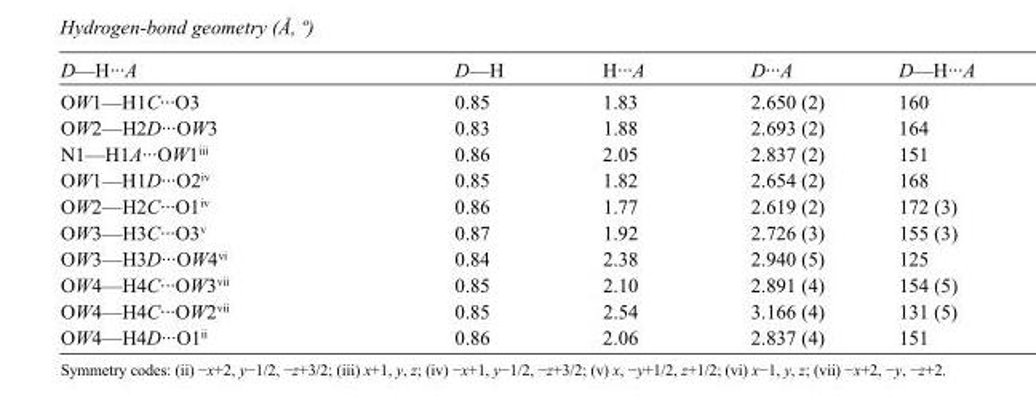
<table><tbody><tr><td>D—H···A</td><td>D—H</td><td>H···A</td><td>D···A</td><td>D—H···A</td></tr><tr><td>OW1—H1C···O3</td><td>0.85</td><td>1.83</td><td>2.650 (2)</td><td>160</td></tr><tr><td>OW2—H2D···OW3</td><td>0.83</td><td>1.88</td><td>2.693 (2)</td><td>164</td></tr><tr><td>N1—H1A···OW1<sup>iii</sup></td><td>0.86</td><td>2.05</td><td>2.837 (2)</td><td>151</td></tr><tr><td>OW1—H1D···O2<sup>iv</sup></td><td>0.85</td><td>1.82</td><td>2.654 (2)</td><td>168</td></tr><tr><td>OW2—H2C···O1<sup>iv</sup></td><td>0.86</td><td>1.77</td><td>2.619 (2)</td><td>172 (3)</td></tr><tr><td>OW3—H3C···O3<sup>v</sup></td><td>0.87</td><td>1.92</td><td>2.726 (3)</td><td>155 (3)</td></tr><tr><td>OW3—H3D···OW4<sup>vi</sup></td><td>0.84</td><td>2.38</td><td>2.940 (5)</td><td>125</td></tr><tr><td>OW4—H4C···OW3<sup>vii</sup></td><td>0.85</td><td>2.10</td><td>2.891 (4)</td><td>154 (5)</td></tr><tr><td>OW4—H4C···OW2<sup>vii</sup></td><td>0.85</td><td>2.54</td><td>3.166 (4)</td><td>131 (5)</td></tr><tr><td>OW4—H4D···O1<sup>ii</sup></td><td>0.86</td><td>2.06</td><td>2.837 (4)</td><td>151</td></tr></tbody></table>